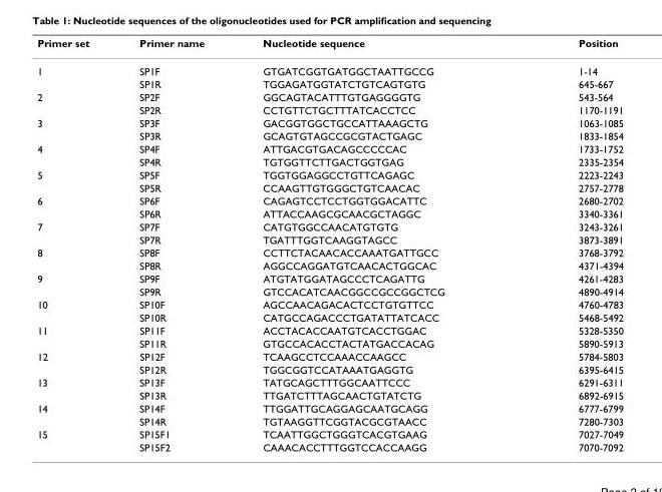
<table><thead><tr><td>Primer set</td><td>Primer name</td><td>Nucleotide sequence</td><td>Position</td></tr></thead><tbody><tr><td rowspan="2">1</td><td>SP1F</td><td>GTGATCGGTGATGGCTAATTGCCG</td><td>1-14</td></tr><tr><td>SP1R</td><td>TGGAGATGGTATCTGTCAGTGTG</td><td>645-667</td></tr><tr><td rowspan="2">2</td><td>SP2F</td><td>GGCAGTACATTTGTGAGGGGTG</td><td>543-564</td></tr><tr><td>SP2R</td><td>CCTGTTCTGCTTTATCACCTCC</td><td>1170-1191</td></tr><tr><td rowspan="2">3</td><td>SP3F</td><td>GACGGTGGCTGCCATTAAAGCTG</td><td>1063-1085</td></tr><tr><td>SP3R</td><td>GCAGTGTAGCCGCGTACTGAGC</td><td>1833-1854</td></tr><tr><td rowspan="2">4</td><td>SP4F</td><td>ATTGACGTGACAGCCCCCAC</td><td>1733-1752</td></tr><tr><td>SP4R</td><td>TGTGGTTCTTGACTGGTGAG</td><td>2335-2354</td></tr><tr><td rowspan="2">5</td><td>SP5F</td><td>TGGTGGAGGCCTGTTCAGAGC</td><td>2223-2243</td></tr><tr><td>SP5R</td><td>CCAAGTTGTGGGCTGTCAACAC</td><td>2757-2778</td></tr><tr><td rowspan="2">6</td><td>SP6F</td><td>CAGAGTCCTCCTGGTGGACATTC</td><td>2680-2702</td></tr><tr><td>SP6R</td><td>ATTACCAAGCGCAACGCTAGGC</td><td>3340-3361</td></tr><tr><td rowspan="2">7</td><td>SP7F</td><td>CATGTGGCCAACATGTGTG</td><td>3243-3261</td></tr><tr><td>SP7R</td><td>TGATTTGGTCAAGGTAGCC</td><td>3873-3891</td></tr><tr><td rowspan="2">8</td><td>SP8F</td><td>CCTTCTACAACACCAAATGATTGCC</td><td>3768-3792</td></tr><tr><td>SP8R</td><td>AGGCCAGGATGTCAACACTGGCAC</td><td>4371-4394</td></tr><tr><td rowspan="2">9</td><td>SP9F</td><td>ATGTATGGATAGCCCTCAGATTG</td><td>4261-4283</td></tr><tr><td>SP9R</td><td>GTCCACATCAACGGCCGCCGGCTCG</td><td>4890-4914</td></tr><tr><td rowspan="2">10</td><td>SP10F</td><td>AGCCAACAGACACTCCTGTGTTCC</td><td>4760-4783</td></tr><tr><td>SP10R</td><td>CATGCCAGACCCTGATATTATCACC</td><td>5468-5492</td></tr><tr><td rowspan="2">11</td><td>SP11F</td><td>ACCTACACCAATGTCACCTGGAC</td><td>5328-5350</td></tr><tr><td>SP11R</td><td>GTGCCACACCTACTATGACCACAG</td><td>5890-5913</td></tr><tr><td rowspan="2">12</td><td>SP12F</td><td>TCAAGCCTCCAAACCAAGCC</td><td>5784-5803</td></tr><tr><td>SP12R</td><td>TGGCGGTCCATAAATGAGGTG</td><td>6395-6415</td></tr><tr><td rowspan="2">13</td><td>SP13F</td><td>TATGCAGCTTTGGCAATTCCC</td><td>6291-6311</td></tr><tr><td>SP13R</td><td>TTGATCTTTAGCAACTGTATCTG</td><td>6892-6915</td></tr><tr><td rowspan="2">14</td><td>SP14F</td><td>TTGGATTGCAGGAGCAATGCAGG</td><td>6777-6799</td></tr><tr><td>SP14R</td><td>TGTAAGGTTCGGTACGCGTAACC</td><td>7280-7303</td></tr><tr><td rowspan="2">15</td><td>SP15F1</td><td>TCAATTGGCTGGGTCACGTGAAG</td><td>7027-7049</td></tr><tr><td>SP15F2</td><td>CAAACACCTTTGGTCCACCAAGG</td><td>7070-7092</td></tr></tbody></table>